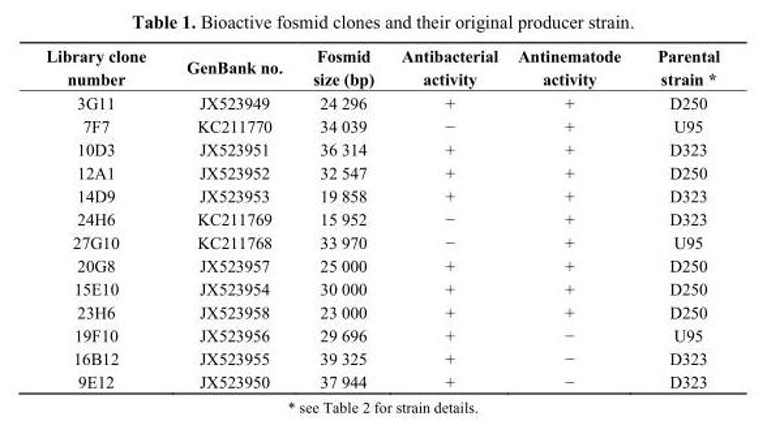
<table><thead><tr><td>Library clone number</td><td>GenBank no.</td><td>Fosmid size (bp)</td><td>Antibacterial activity</td><td>Antinematode activity</td><td>Parental strain *</td></tr></thead><tbody><tr><td>3G11</td><td>JX523949</td><td>24 296</td><td>+</td><td>+</td><td>D250</td></tr><tr><td>7F7</td><td>KC211770</td><td>34 039</td><td>−</td><td>+</td><td>U95</td></tr><tr><td>10D3</td><td>JX523951</td><td>36 314</td><td>+</td><td>+</td><td>D323</td></tr><tr><td>12A1</td><td>JX523952</td><td>32 547</td><td>+</td><td>+</td><td>D250</td></tr><tr><td>14D9</td><td>JX523953</td><td>19 858</td><td>+</td><td>+</td><td>D323</td></tr><tr><td>24H6</td><td>KC211769</td><td>15 952</td><td>−</td><td>+</td><td>D323</td></tr><tr><td>27G10</td><td>KC211768</td><td>33 970</td><td>−</td><td>+</td><td>U95</td></tr><tr><td>20G8</td><td>JX523957</td><td>25 000</td><td>+</td><td>+</td><td>D250</td></tr><tr><td>15E10</td><td>JX523954</td><td>30 000</td><td>+</td><td>+</td><td>D250</td></tr><tr><td>23H6</td><td>JX523958</td><td>23 000</td><td>+</td><td>+</td><td>D250</td></tr><tr><td>19F10</td><td>JX523956</td><td>29 696</td><td>+</td><td>−</td><td>U95</td></tr><tr><td>16B12</td><td>JX523955</td><td>39 325</td><td>+</td><td>−</td><td>D323</td></tr><tr><td>9E12</td><td>JX523950</td><td>37 944</td><td>+</td><td>−</td><td>D323</td></tr></tbody></table>